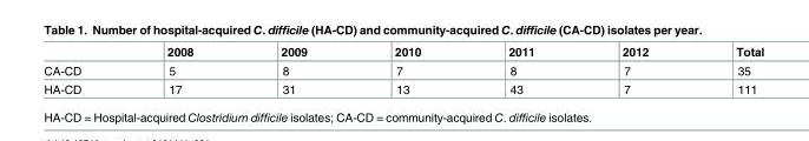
<table><thead><tr><td></td><td>2008</td><td>2009</td><td>2010</td><td>2011</td><td>2012</td><td>Total</td></tr></thead><tbody><tr><td>CA-CD</td><td>5</td><td>8</td><td>7</td><td>8</td><td>7</td><td>35</td></tr><tr><td>HA-CD</td><td>17</td><td>31</td><td>13</td><td>43</td><td>7</td><td>111</td></tr></tbody></table>